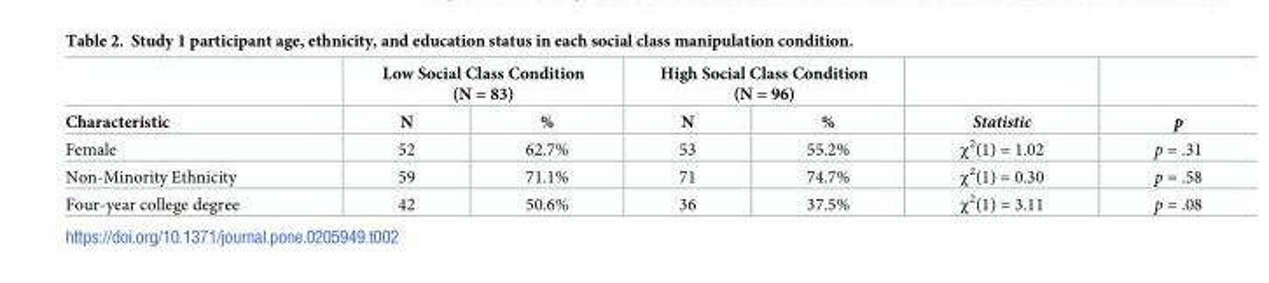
<table><thead><tr><td rowspan="2">Characteristic</td><td colspan="2">Low Social Class Condition (N = 83)</td><td colspan="2">High Social Class Condition (N = 96)</td><td rowspan="2">Statistic</td><td rowspan="2">p</td></tr><tr><td>N</td><td>%</td><td>N</td><td>%</td></tr></thead><tbody><tr><td>Female</td><td>52</td><td>62.7%</td><td>53</td><td>55.2%</td><td>χ<sup>2</sup>(1) = 1.02</td><td>p = .31</td></tr><tr><td>Non-Minority Ethnicity</td><td>59</td><td>71.1%</td><td>71</td><td>74.7%</td><td>χ<sup>2</sup>(1) = 0.30</td><td>p = .58</td></tr><tr><td>Four-year college degree</td><td>42</td><td>50.6%</td><td>36</td><td>37.5%</td><td>χ<sup>2</sup>(1) = 3.11</td><td>p = .08</td></tr></tbody></table>